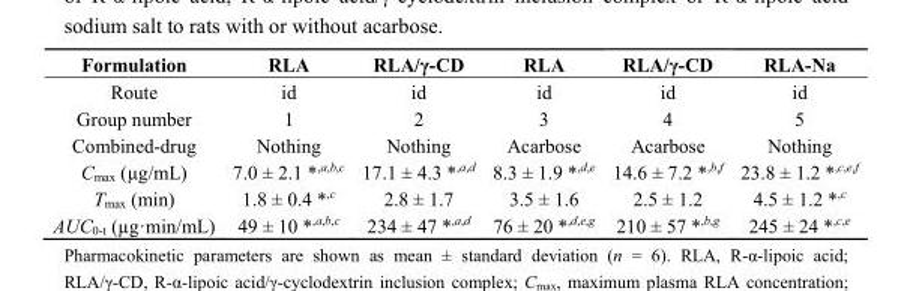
<table><thead><tr><td>Formulation</td><td>RLA</td><td>RLA/γ-CD</td><td>RLA</td><td>RLA/γ-CD</td><td>RLA-Na</td></tr></thead><tbody><tr><td>Route</td><td>id</td><td>id</td><td>id</td><td>id</td><td>id</td></tr><tr><td>Group number</td><td>1</td><td>2</td><td>3</td><td>4</td><td>5</td></tr><tr><td>Combined-drug</td><td>Nothing</td><td>Nothing</td><td>Acarbose</td><td>Acarbose</td><td>Nothing</td></tr><tr><td>C<sub>max</sub> (µg/mL)</td><td>7.0 ± 2.1 *<sup>,a,b,c</sup></td><td>17.1 ± 4.3 *<sup>,a,d</sup></td><td>8.3 ± 1.9 *<sup>,d,e</sup></td><td>14.6 ± 7.2 *<sup>,b,f</sup></td><td>23.8 ± 1.2 *<sup>,c,e,f</sup></td></tr><tr><td>T<sub>max</sub> (min)</td><td>1.8 ± 0.4 *<sup>,c</sup></td><td>2.8 ± 1.7</td><td>3.5 ± 1.6</td><td>2.5 ± 1.2</td><td>4.5 ± 1.2 *<sup>,c</sup></td></tr><tr><td>AUC<sub>0-t</sub> (µg·min/mL)</td><td>49 ± 10 *<sup>,a,b,c</sup></td><td>234 ± 47 *<sup>,a,d</sup></td><td>76 ± 20 *<sup>,d,e,g</sup></td><td>210 ± 57 *<sup>,b,g</sup></td><td>245 ± 24 *<sup>,c,e</sup></td></tr></tbody></table>